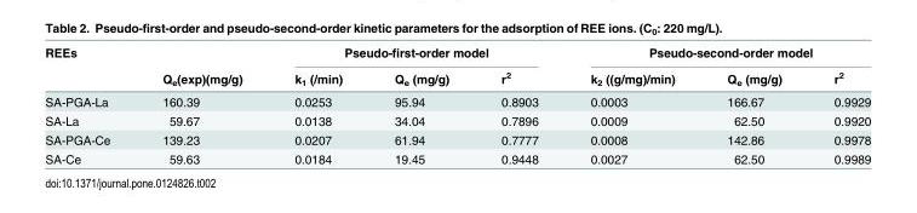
<table><thead><tr><td rowspan="2">REEs</td><td rowspan="2">Q<sub>e</sub>(exp)(mg/g)</td><td colspan="3">Pseudo-first-order model</td><td colspan="3">Pseudo-second-order model</td></tr><tr><td>k<sub>1</sub> (/min)</td><td>Q<sub>e</sub> (mg/g)</td><td>r<sup>2</sup></td><td>k<sub>2</sub> ((g/mg)/min)</td><td>Q<sub>e</sub> (mg/g)</td><td>r<sup>2</sup></td></tr></thead><tbody><tr><td>SA-PGA-La</td><td>160.39</td><td>0.0253</td><td>95.94</td><td>0.8903</td><td>0.0003</td><td>166.67</td><td>0.9929</td></tr><tr><td>SA-La</td><td>59.67</td><td>0.0138</td><td>34.04</td><td>0.7896</td><td>0.0009</td><td>62.50</td><td>0.9920</td></tr><tr><td>SA-PGA-Ce</td><td>139.23</td><td>0.0207</td><td>61.94</td><td>0.7777</td><td>0.0008</td><td>142.86</td><td>0.9978</td></tr><tr><td>SA-Ce</td><td>59.63</td><td>0.0184</td><td>19.45</td><td>0.9448</td><td>0.0027</td><td>62.50</td><td>0.9989</td></tr></tbody></table>